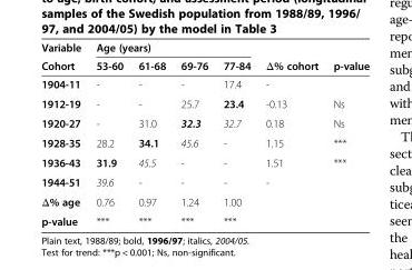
<table><thead><tr><td rowspan="2">Variable Cohort</td><td colspan="4">Age (years)</td><td rowspan="2">Δ% cohort</td><td rowspan="2">p-value</td></tr><tr><td>53-60</td><td>61-68</td><td>69-76</td><td>77-84</td></tr></thead><tbody><tr><td>1904-11</td><td>-</td><td>-</td><td>-</td><td>17.4</td><td>-</td><td></td></tr><tr><td>1912-19</td><td>-</td><td>-</td><td>25.7</td><td>23.4</td><td>-0.13</td><td>Ns</td></tr><tr><td>1920-27</td><td>-</td><td>31.0</td><td>32.3</td><td>32.7</td><td>0.18</td><td>Ns</td></tr><tr><td>1928-35</td><td>28.2</td><td>34.1</td><td>45.6</td><td>-</td><td>1.15</td><td>***</td></tr><tr><td>1936-43</td><td>31.9</td><td>45.5</td><td>-</td><td>-</td><td>1.51</td><td>***</td></tr><tr><td>1944-51</td><td>39.6</td><td>-</td><td>-</td><td>-</td><td>-</td><td></td></tr><tr><td>Δ% age</td><td>0.76</td><td>0.97</td><td>1.24</td><td>1.00</td><td></td><td></td></tr><tr><td>p-value</td><td>***</td><td>***</td><td>***</td><td>***</td><td></td><td></td></tr></tbody></table>